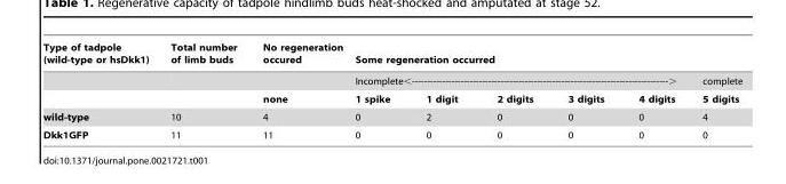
<table><thead><tr><td rowspan="3">Type of tadpole (wild-type or hsDkk1)</td><td rowspan="3">Total number of limb buds</td><td rowspan="3">No regeneration occured none</td><td colspan="6">Some regeneration occurred</td></tr><tr><td colspan="5">Incomplete&lt;------------------------------------------------------------------------------------&gt;</td><td rowspan="2">complete 5 digits</td></tr><tr><td>1 spike</td><td>1 digit</td><td>2 digits</td><td>3 digits</td><td>4 digits</td></tr></thead><tbody><tr><td>wild-type</td><td>10</td><td>4</td><td>0</td><td>2</td><td>0</td><td>0</td><td>0</td><td>4</td></tr><tr><td>Dkk1GFP</td><td>11</td><td>11</td><td>0</td><td>0</td><td>0</td><td>0</td><td>0</td><td>0</td></tr></tbody></table>